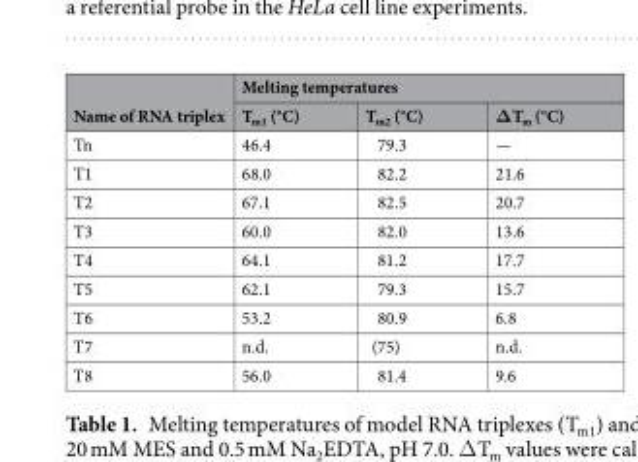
<table><thead><tr><td rowspan="2">Name of RNA triplex</td><td colspan="3">Melting temperatures</td></tr><tr><td>T<sub>m1</sub> (°C)</td><td>T<sub>m2</sub> (°C)</td><td>ΔT<sub>m</sub> (°C)</td></tr></thead><tbody><tr><td>Tn</td><td>46.4</td><td>79.3</td><td>—</td></tr><tr><td>T1</td><td>68.0</td><td>82.2</td><td>21.6</td></tr><tr><td>T2</td><td>67.1</td><td>82.5</td><td>20.7</td></tr><tr><td>T3</td><td>60.0</td><td>82.0</td><td>13.6</td></tr><tr><td>T4</td><td>64.1</td><td>81.2</td><td>17.7</td></tr><tr><td>T5</td><td>62.1</td><td>79.3</td><td>15.7</td></tr><tr><td>T6</td><td>53.2</td><td>80.9</td><td>6.8</td></tr><tr><td>T7</td><td>n.d.</td><td>(75)</td><td>n.d.</td></tr><tr><td>T8</td><td>56.0</td><td>81.4</td><td>9.6</td></tr></tbody></table>